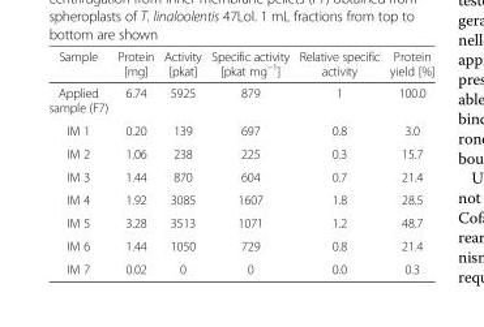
<table><thead><tr><td>Sample</td><td>Protein [mg]</td><td>Activity [pkat]</td><td>Specific activity [pkat mg<sup>−1</sup>]</td><td>Relative specific activity</td><td>Protein yield [%]</td></tr></thead><tbody><tr><td>Applied sample (F7)</td><td>6.74</td><td>5925</td><td>879</td><td>1</td><td>100.0</td></tr><tr><td>IM 1</td><td>0.20</td><td>139</td><td>697</td><td>0.8</td><td>3.0</td></tr><tr><td>IM 2</td><td>1.06</td><td>238</td><td>225</td><td>0.3</td><td>15.7</td></tr><tr><td>IM 3</td><td>1.44</td><td>870</td><td>604</td><td>0.7</td><td>21.4</td></tr><tr><td>IM 4</td><td>1.92</td><td>3085</td><td>1607</td><td>1.8</td><td>28.5</td></tr><tr><td>IM 5</td><td>3.28</td><td>3513</td><td>1071</td><td>1.2</td><td>48.7</td></tr><tr><td>IM 6</td><td>1.44</td><td>1050</td><td>729</td><td>0.8</td><td>21.4</td></tr><tr><td>IM 7</td><td>0.02</td><td>0</td><td>0</td><td>0.0</td><td>0.3</td></tr></tbody></table>